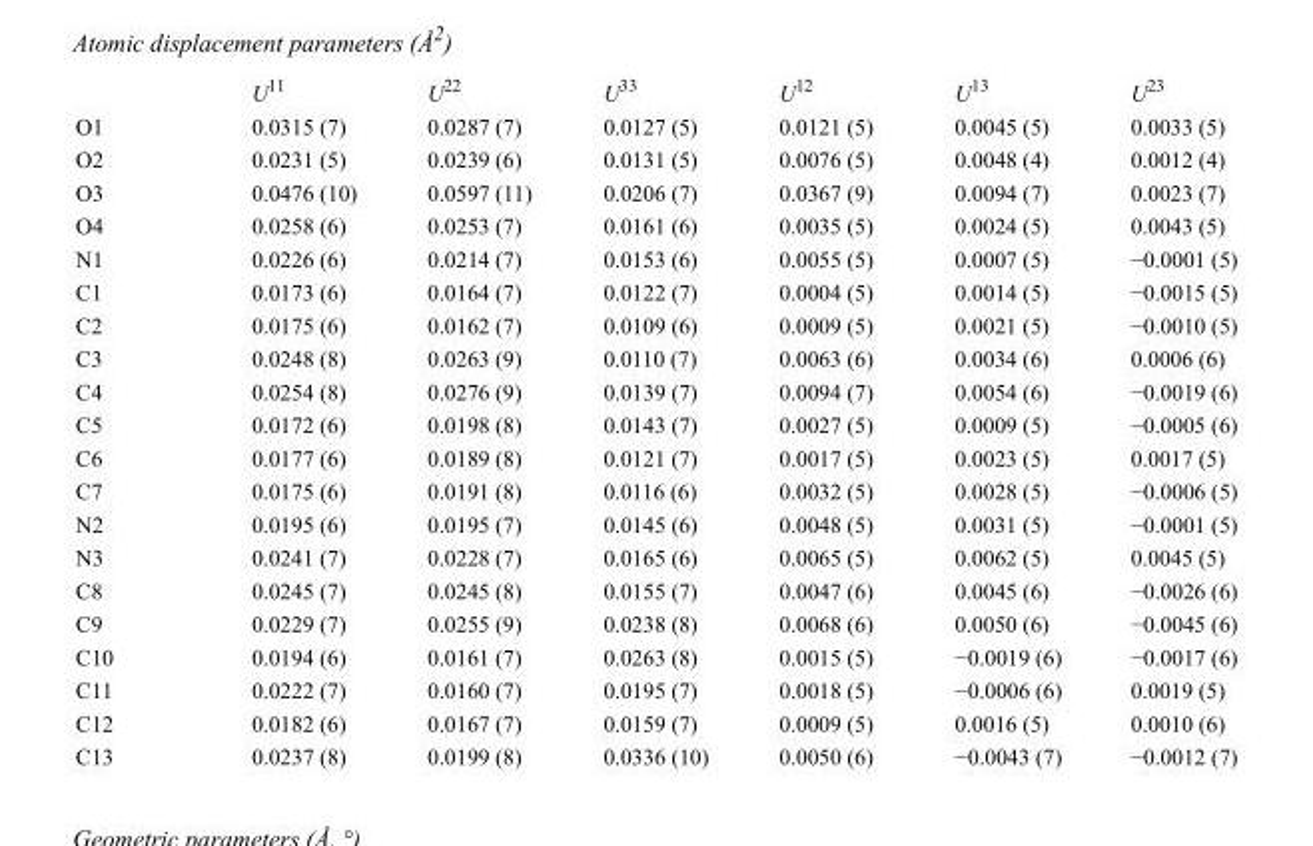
<table><thead><tr><td></td><td>U<sup>11</sup></td><td>U<sup>22</sup></td><td>U<sup>33</sup></td><td>U<sup>12</sup></td><td>U<sup>13</sup></td><td>U<sup>23</sup></td></tr></thead><tbody><tr><td>O1</td><td>0.0315 (7)</td><td>0.0287 (7)</td><td>0.0127 (5)</td><td>0.0121 (5)</td><td>0.0045 (5)</td><td>0.0033 (5)</td></tr><tr><td>O2</td><td>0.0231 (5)</td><td>0.0239 (6)</td><td>0.0131 (5)</td><td>0.0076 (5)</td><td>0.0048 (4)</td><td>0.0012 (4)</td></tr><tr><td>O3</td><td>0.0476 (10)</td><td>0.0597 (11)</td><td>0.0206 (7)</td><td>0.0367 (9)</td><td>0.0094 (7)</td><td>0.0023 (7)</td></tr><tr><td>O4</td><td>0.0258 (6)</td><td>0.0253 (7)</td><td>0.0161 (6)</td><td>0.0035 (5)</td><td>0.0024 (5)</td><td>0.0043 (5)</td></tr><tr><td>N1</td><td>0.0226 (6)</td><td>0.0214 (7)</td><td>0.0153 (6)</td><td>0.0055 (5)</td><td>0.0007 (5)</td><td>−0.0001 (5)</td></tr><tr><td>C1</td><td>0.0173 (6)</td><td>0.0164 (7)</td><td>0.0122 (7)</td><td>0.0004 (5)</td><td>0.0014 (5)</td><td>−0.0015 (5)</td></tr><tr><td>C2</td><td>0.0175 (6)</td><td>0.0162 (7)</td><td>0.0109 (6)</td><td>0.0009 (5)</td><td>0.0021 (5)</td><td>−0.0010 (5)</td></tr><tr><td>C3</td><td>0.0248 (8)</td><td>0.0263 (9)</td><td>0.0110 (7)</td><td>0.0063 (6)</td><td>0.0034 (6)</td><td>0.0006 (6)</td></tr><tr><td>C4</td><td>0.0254 (8)</td><td>0.0276 (9)</td><td>0.0139 (7)</td><td>0.0094 (7)</td><td>0.0054 (6)</td><td>−0.0019 (6)</td></tr><tr><td>C5</td><td>0.0172 (6)</td><td>0.0198 (8)</td><td>0.0143 (7)</td><td>0.0027 (5)</td><td>0.0009 (5)</td><td>−0.0005 (6)</td></tr><tr><td>C6</td><td>0.0177 (6)</td><td>0.0189 (8)</td><td>0.0121 (7)</td><td>0.0017 (5)</td><td>0.0023 (5)</td><td>0.0017 (5)</td></tr><tr><td>C7</td><td>0.0175 (6)</td><td>0.0191 (8)</td><td>0.0116 (6)</td><td>0.0032 (5)</td><td>0.0028 (5)</td><td>−0.0006 (5)</td></tr><tr><td>N2</td><td>0.0195 (6)</td><td>0.0195 (7)</td><td>0.0145 (6)</td><td>0.0048 (5)</td><td>0.0031 (5)</td><td>−0.0001 (5)</td></tr><tr><td>N3</td><td>0.0241 (7)</td><td>0.0228 (7)</td><td>0.0165 (6)</td><td>0.0065 (5)</td><td>0.0062 (5)</td><td>0.0045 (5)</td></tr><tr><td>C8</td><td>0.0245 (7)</td><td>0.0245 (8)</td><td>0.0155 (7)</td><td>0.0047 (6)</td><td>0.0045 (6)</td><td>−0.0026 (6)</td></tr><tr><td>C9</td><td>0.0229 (7)</td><td>0.0255 (9)</td><td>0.0238 (8)</td><td>0.0068 (6)</td><td>0.0050 (6)</td><td>−0.0045 (6)</td></tr><tr><td>C10</td><td>0.0194 (6)</td><td>0.0161 (7)</td><td>0.0263 (8)</td><td>0.0015 (5)</td><td>−0.0019 (6)</td><td>−0.0017 (6)</td></tr><tr><td>C11</td><td>0.0222 (7)</td><td>0.0160 (7)</td><td>0.0195 (7)</td><td>0.0018 (5)</td><td>−0.0006 (6)</td><td>0.0019 (5)</td></tr><tr><td>C12</td><td>0.0182 (6)</td><td>0.0167 (7)</td><td>0.0159 (7)</td><td>0.0009 (5)</td><td>0.0016 (5)</td><td>0.0010 (6)</td></tr><tr><td>C13</td><td>0.0237 (8)</td><td>0.0199 (8)</td><td>0.0336 (10)</td><td>0.0050 (6)</td><td>−0.0043 (7)</td><td>−0.0012 (7)</td></tr></tbody></table>